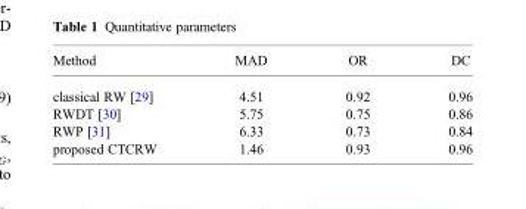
<table><thead><tr><td>Method</td><td>MAD</td><td>OR</td><td>DC</td></tr></thead><tbody><tr><td>classical RW [29]</td><td>4.51</td><td>0.92</td><td>0.96</td></tr><tr><td>RWDT [30]</td><td>5.75</td><td>0.75</td><td>0.86</td></tr><tr><td>RWP [31]</td><td>6.33</td><td>0.73</td><td>0.84</td></tr><tr><td>proposed CTCRW</td><td>1.46</td><td>0.93</td><td>0.96</td></tr></tbody></table>